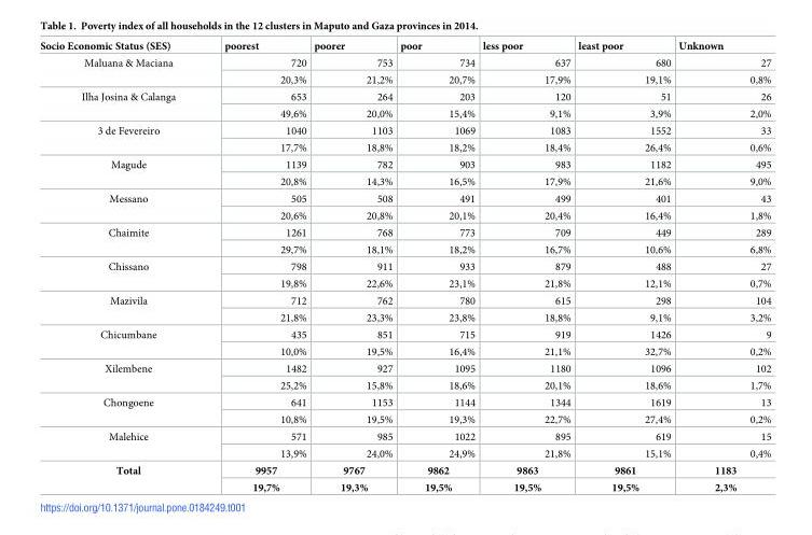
<table><thead><tr><td>Socio Economic Status (SES)</td><td>poorest</td><td>poorer</td><td>poor</td><td>less poor</td><td>least poor</td><td>Unknown</td></tr></thead><tbody><tr><td rowspan="2">Maluana &amp; Maciana</td><td>720</td><td>753</td><td>734</td><td>637</td><td>680</td><td>27</td></tr><tr><td>20,3%</td><td>21,2%</td><td>20,7%</td><td>17,9%</td><td>19,1%</td><td>0,8%</td></tr><tr><td rowspan="2">Ilha Josina &amp; Calanga</td><td>653</td><td>264</td><td>203</td><td>120</td><td>51</td><td>26</td></tr><tr><td>49,6%</td><td>20,0%</td><td>15,4%</td><td>9,1%</td><td>3,9%</td><td>2,0%</td></tr><tr><td rowspan="2">3 de Fevereiro</td><td>1040</td><td>1103</td><td>1069</td><td>1083</td><td>1552</td><td>33</td></tr><tr><td>17,7%</td><td>18,8%</td><td>18,2%</td><td>18,4%</td><td>26,4%</td><td>0,6%</td></tr><tr><td rowspan="2">Magude</td><td>1139</td><td>782</td><td>903</td><td>983</td><td>1182</td><td>495</td></tr><tr><td>20,8%</td><td>14,3%</td><td>16,5%</td><td>17,9%</td><td>21,6%</td><td>9,0%</td></tr><tr><td rowspan="2">Messano</td><td>505</td><td>508</td><td>491</td><td>499</td><td>401</td><td>43</td></tr><tr><td>20,6%</td><td>20,8%</td><td>20,1%</td><td>20,4%</td><td>16,4%</td><td>1,8%</td></tr><tr><td rowspan="2">Chaimite</td><td>1261</td><td>768</td><td>773</td><td>709</td><td>449</td><td>289</td></tr><tr><td>29,7%</td><td>18,1%</td><td>18,2%</td><td>16,7%</td><td>10,6%</td><td>6,8%</td></tr><tr><td rowspan="2">Chissano</td><td>798</td><td>911</td><td>933</td><td>879</td><td>488</td><td>27</td></tr><tr><td>19,8%</td><td>22,6%</td><td>23,1%</td><td>21,8%</td><td>12,1%</td><td>0,7%</td></tr><tr><td rowspan="2">Mazivila</td><td>712</td><td>762</td><td>780</td><td>615</td><td>298</td><td>104</td></tr><tr><td>21,8%</td><td>23,3%</td><td>23,8%</td><td>18,8%</td><td>9,1%</td><td>3,2%</td></tr><tr><td rowspan="2">Chicumbane</td><td>435</td><td>851</td><td>715</td><td>919</td><td>1426</td><td>9</td></tr><tr><td>10,0%</td><td>19,5%</td><td>16,4%</td><td>21,1%</td><td>32,7%</td><td>0,2%</td></tr><tr><td rowspan="2">Xilembene</td><td>1482</td><td>927</td><td>1095</td><td>1180</td><td>1096</td><td>102</td></tr><tr><td>25,2%</td><td>15,8%</td><td>18,6%</td><td>20,1%</td><td>18,6%</td><td>1,7%</td></tr><tr><td rowspan="2">Chongoene</td><td>641</td><td>1153</td><td>1144</td><td>1344</td><td>1619</td><td>13</td></tr><tr><td>10,8%</td><td>19,5%</td><td>19,3%</td><td>22,7%</td><td>27,4%</td><td>0,2%</td></tr><tr><td rowspan="2">Malehice</td><td>571</td><td>985</td><td>1022</td><td>895</td><td>619</td><td>15</td></tr><tr><td>13,9%</td><td>24,0%</td><td>24,9%</td><td>21,8%</td><td>15,1%</td><td>0,4%</td></tr><tr><td rowspan="2">Total</td><td>9957</td><td>9767</td><td>9862</td><td>9863</td><td>9861</td><td>1183</td></tr><tr><td>19,7%</td><td>19,3%</td><td>19,5%</td><td>19,5%</td><td>19,5%</td><td>2,3%</td></tr></tbody></table>